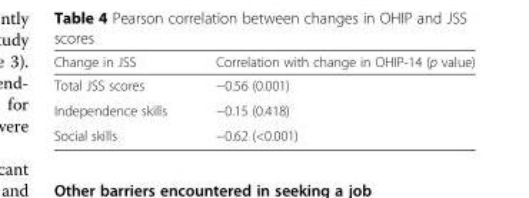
<table><thead><tr><td>Change in JSS</td><td>Correlation with change in OHIP-14 (p value)</td></tr></thead><tbody><tr><td>Total JSS scores</td><td>−0.56 (0.001)</td></tr><tr><td>Independence skills</td><td>−0.15 (0.418)</td></tr><tr><td>Social skills</td><td>−0.62 (&lt;0.001)</td></tr></tbody></table>